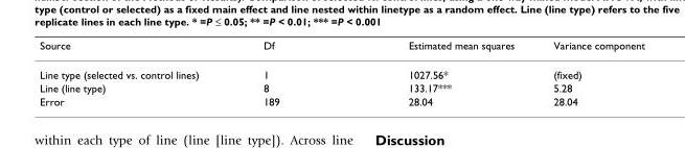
<table><thead><tr><td>Source</td><td>Df</td><td>Estimated mean squares</td><td>Variance component</td></tr></thead><tbody><tr><td>Line type (selected vs. control lines)</td><td>1</td><td>1027.56*</td><td>(fixed)</td></tr><tr><td>Line (line type)</td><td>8</td><td>133.17***</td><td>5.28</td></tr><tr><td>Error</td><td>189</td><td>28.04</td><td>28.04</td></tr></tbody></table>